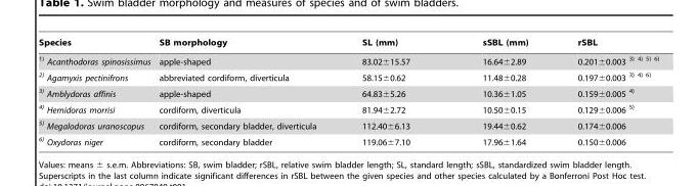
<table><thead><tr><td>Species</td><td>SB morphology</td><td>SL (mm)</td><td>sSBL (mm)</td><td>rSBL</td></tr></thead><tbody><tr><td><sup>1)</sup> Acanthodoras spinosissimus</td><td>apple-shaped</td><td>83.02±15.57</td><td>16.64±2.89</td><td>0.201±0.003 <sup>3) 4) 5) 6)</sup></td></tr><tr><td><sup>2)</sup> Agamyxis pectinifrons</td><td>abbreviated cordiform, diverticula</td><td>58.15±0.62</td><td>11.48±0.28</td><td>0.197±0.003 <sup>3) 4) 6)</sup></td></tr><tr><td><sup>3)</sup> Amblydoras affinis</td><td>apple-shaped</td><td>64.83±5.26</td><td>10.36±1.05</td><td>0.159±0.005 <sup>4)</sup></td></tr><tr><td><sup>4)</sup> Hemidoras morrisi</td><td>cordiform, diverticula</td><td>81.94±2.72</td><td>10.50±0.15</td><td>0.129±0.006 <sup>5)</sup></td></tr><tr><td><sup>5)</sup> Megalodoras uranoscopus</td><td>cordiform, secondary bladder, diverticula</td><td>112.40±6.13</td><td>19.44±0.62</td><td>0.174±0.006</td></tr><tr><td><sup>6)</sup> Oxydoras niger</td><td>cordiform, secondary bladder</td><td>119.06±7.10</td><td>17.96±1.64</td><td>0.150±0.006</td></tr></tbody></table>